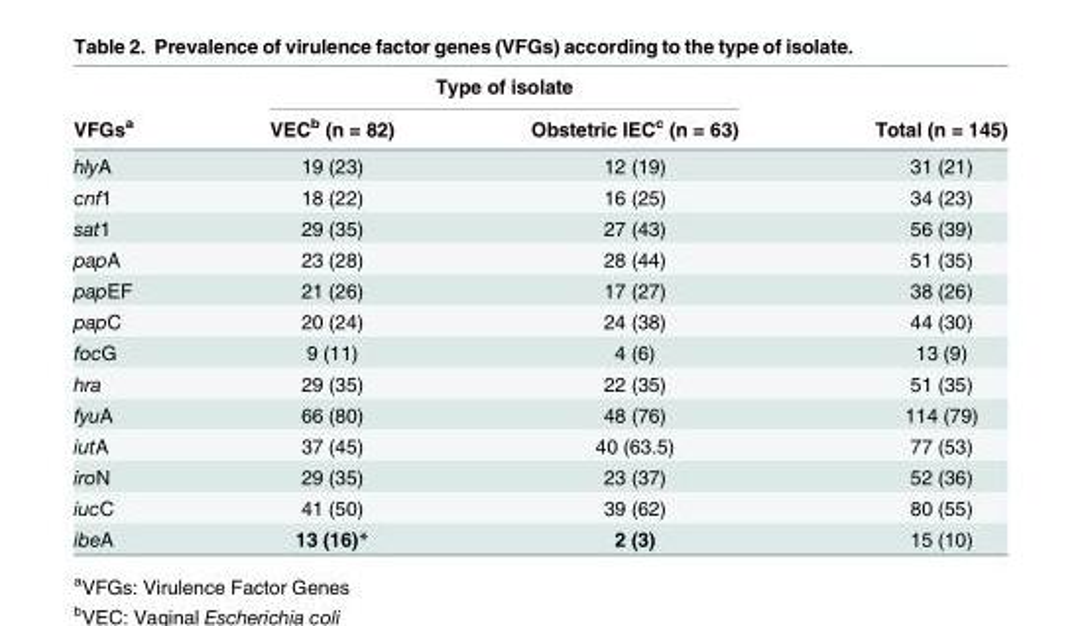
<table><thead><tr><td rowspan="2">VFGs<sup>a</sup></td><td colspan="2">Type of isolate</td><td rowspan="2">Total (n = 145)</td></tr><tr><td>VEC<sup>b</sup> (n = 82)</td><td>Obstetric IEC<sup>c</sup> (n = 63)</td></tr></thead><tbody><tr><td>hlyA</td><td>19 (23)</td><td>12 (19)</td><td>31 (21)</td></tr><tr><td>cnf1</td><td>18 (22)</td><td>16 (25)</td><td>34 (23)</td></tr><tr><td>sat1</td><td>29 (35)</td><td>27 (43)</td><td>56 (39)</td></tr><tr><td>papA</td><td>23 (28)</td><td>28 (44)</td><td>51 (35)</td></tr><tr><td>papEF</td><td>21 (26)</td><td>17 (27)</td><td>38 (26)</td></tr><tr><td>papC</td><td>20 (24)</td><td>24 (38)</td><td>44 (30)</td></tr><tr><td>focG</td><td>9 (11)</td><td>4 (6)</td><td>13 (9)</td></tr><tr><td>hra</td><td>29 (35)</td><td>22 (35)</td><td>51 (35)</td></tr><tr><td>fyuA</td><td>66 (80)</td><td>48 (76)</td><td>114 (79)</td></tr><tr><td>iutA</td><td>37 (45)</td><td>40 (63.5)</td><td>77 (53)</td></tr><tr><td>iroN</td><td>29 (35)</td><td>23 (37)</td><td>52 (36)</td></tr><tr><td>iucC</td><td>41 (50)</td><td>39 (62)</td><td>80 (55)</td></tr><tr><td>ibeA</td><td>13 (16)*</td><td>2 (3)</td><td>15 (10)</td></tr></tbody></table>